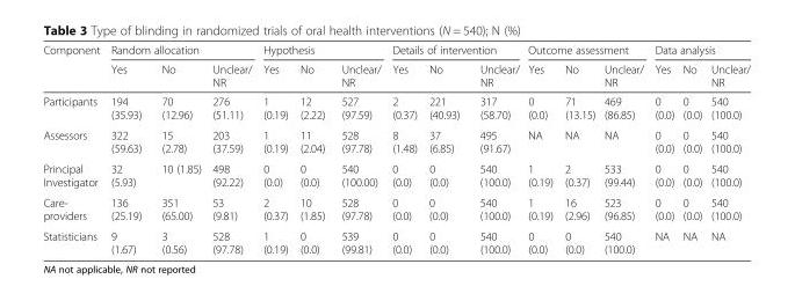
<table><thead><tr><td rowspan="2">Component</td><td colspan="3">Random allocation</td><td colspan="3">Hypothesis</td><td colspan="3">Details of intervention</td><td colspan="3">Outcome assessment</td><td colspan="3">Data analysis</td></tr><tr><td>Yes</td><td>No</td><td>Unclear/ NR</td><td>Yes</td><td>No</td><td>Unclear/ NR</td><td>Yes</td><td>No</td><td>Unclear/ NR</td><td>Yes</td><td>No</td><td>Unclear/ NR</td><td>Yes</td><td>No</td><td>Unclear/ NR</td></tr></thead><tbody><tr><td>Participants</td><td>194 (35.93)</td><td>70 (12.96)</td><td>276 (51.11)</td><td>1 (0.19)</td><td>12 (2.22)</td><td>527 (97.59)</td><td>2 (0.37)</td><td>221 (40.93)</td><td>317 (58.70)</td><td>0 (0.0)</td><td>71 (13.15)</td><td>469 (86.85)</td><td>0 (0.0)</td><td>0 (0.0)</td><td>540 (100.0)</td></tr><tr><td>Assessors</td><td>322 (59.63)</td><td>15 (2.78)</td><td>203 (37.59)</td><td>1 (0.19)</td><td>11 (2.04)</td><td>528 (97.78)</td><td>8 (1.48)</td><td>37 (6.85)</td><td>495 (91.67)</td><td>NA</td><td>NA</td><td>NA</td><td>0 (0.0)</td><td>0 (0.0)</td><td>540 (100.0)</td></tr><tr><td>Principal Investigator</td><td>32 (5.93)</td><td>10 (1.85)</td><td>498 (92.22)</td><td>0 (0.0)</td><td>0 (0.0)</td><td>540 (100.00)</td><td>0 (0.0)</td><td>0 (0.0)</td><td>540 (100.0)</td><td>1 (0.19)</td><td>2 (0.37)</td><td>533 (99.44)</td><td>0 (0.0)</td><td>0 (0.0)</td><td>540 (100.0)</td></tr><tr><td>Care- providers</td><td>136 (25.19)</td><td>351 (65.00)</td><td>53 (9.81)</td><td>2 (0.37)</td><td>10 (1.85)</td><td>528 (97.78)</td><td>0 (0.0)</td><td>0 (0.0)</td><td>540 (100.0)</td><td>1 (0.19)</td><td>16 (2.96)</td><td>523 (96.85)</td><td>0 (0.0)</td><td>0 (0.0)</td><td>540 (100.0)</td></tr><tr><td>Statisticians</td><td>9 (1.67)</td><td>3 (0.56)</td><td>528 (97.78)</td><td>1 (0.19)</td><td>0 (0.0)</td><td>539 (99.81)</td><td>0 (0.0)</td><td>0 (0.0)</td><td>540 (100.0)</td><td>0 (0.0)</td><td>0 (0.0)</td><td>540 (100.0)</td><td>NA</td><td>NA</td><td>NA</td></tr></tbody></table>